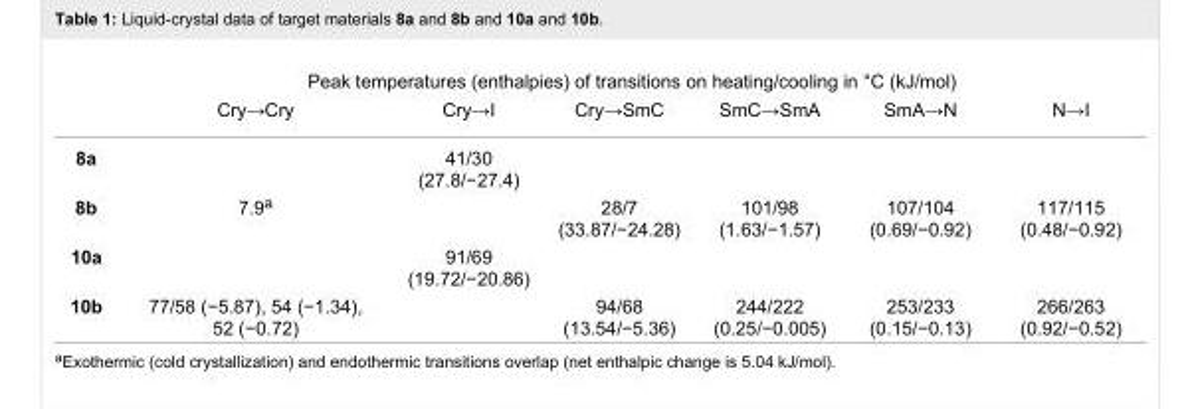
<table><thead><tr><td rowspan="2"></td><td colspan="6">Peak temperatures (enthalpies) of transitions on heating/cooling in °C (kJ/mol)</td></tr><tr><td>Cry→Cry</td><td>Cry→I</td><td>Cry→SmC</td><td>SmC→SmA</td><td>SmA→N</td><td>N→I</td></tr></thead><tbody><tr><td>8a</td><td></td><td>41/30 (27.8/−27.4)</td><td></td><td></td><td></td><td></td></tr><tr><td>8b</td><td>7.9<sup>a</sup></td><td></td><td>28/7 (33.87/−24.28)</td><td>101/98 (1.63/−1.57)</td><td>107/104 (0.69/−0.92)</td><td>117/115 (0.48/−0.92)</td></tr><tr><td>10a</td><td></td><td>91/69 (19.72/−20.86)</td><td></td><td></td><td></td><td></td></tr><tr><td>10b</td><td>77/58 (−5.87), 54 (−1.34), 52 (−0.72)</td><td></td><td>94/68 (13.54/−5.36)</td><td>244/222 (0.25/−0.005)</td><td>253/233 (0.15/−0.13)</td><td>266/263 (0.92/−0.52)</td></tr></tbody></table>